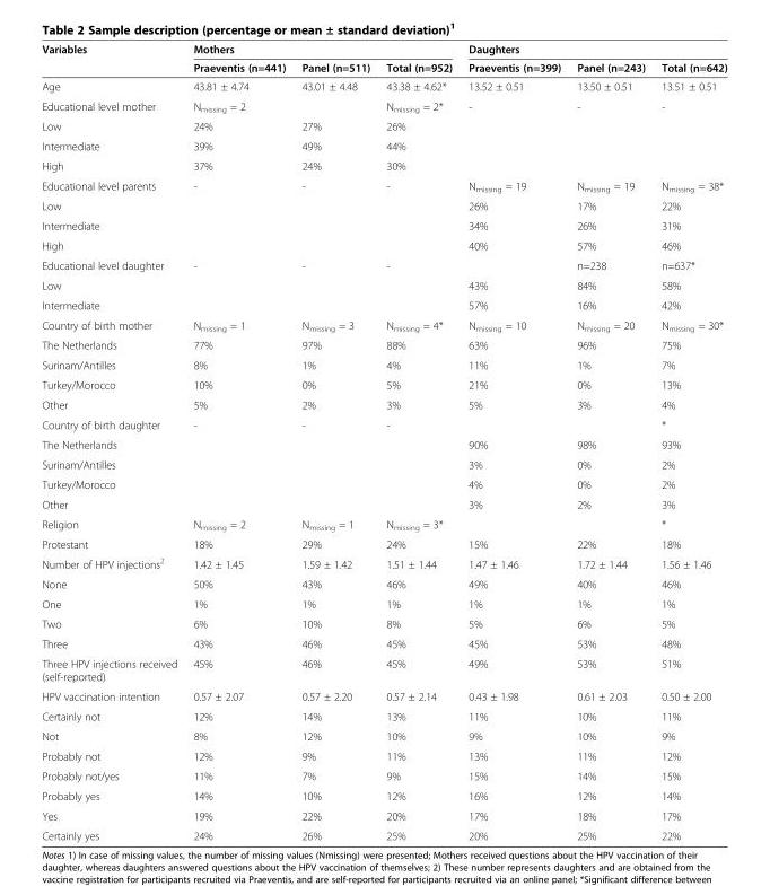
<table><thead><tr><td rowspan="2">Variables</td><td colspan="3">Mothers</td><td colspan="3">Daughters</td></tr><tr><td>Praeventis (n=441)</td><td>Panel (n=511)</td><td>Total (n=952)</td><td>Praeventis (n=399)</td><td>Panel (n=243)</td><td>Total (n=642)</td></tr></thead><tbody><tr><td>Age</td><td>43.81 ± 4.74</td><td>43.01 ± 4.48</td><td>43.38 ± 4.62*</td><td>13.52 ± 0.51</td><td>13.50 ± 0.51</td><td>13.51 ± 0.51</td></tr><tr><td>Educational level mother</td><td>N<sub>missing</sub> = 2</td><td></td><td>N<sub>missing</sub> = 2*</td><td>-</td><td>-</td><td>-</td></tr><tr><td>Low</td><td>24%</td><td>27%</td><td>26%</td><td></td><td></td><td></td></tr><tr><td>Intermediate</td><td>39%</td><td>49%</td><td>44%</td><td></td><td></td><td></td></tr><tr><td>High</td><td>37%</td><td>24%</td><td>30%</td><td></td><td></td><td></td></tr><tr><td>Educational level parents</td><td>-</td><td>-</td><td>-</td><td>N<sub>missing</sub> = 19</td><td>N<sub>missing</sub> = 19</td><td>N<sub>missing</sub> = 38*</td></tr><tr><td>Low</td><td></td><td></td><td></td><td>26%</td><td>17%</td><td>22%</td></tr><tr><td>Intermediate</td><td></td><td></td><td></td><td>34%</td><td>26%</td><td>31%</td></tr><tr><td>High</td><td></td><td></td><td></td><td>40%</td><td>57%</td><td>46%</td></tr><tr><td>Educational level daughter</td><td>-</td><td>-</td><td>-</td><td></td><td>n=238</td><td>n=637*</td></tr><tr><td>Low</td><td></td><td></td><td></td><td>43%</td><td>84%</td><td>58%</td></tr><tr><td>Intermediate</td><td></td><td></td><td></td><td>57%</td><td>16%</td><td>42%</td></tr><tr><td>Country of birth mother</td><td>N<sub>missing</sub> = 1</td><td>N<sub>missing</sub> = 3</td><td>N<sub>missing</sub> = 4*</td><td>N<sub>missing</sub> = 10</td><td>N<sub>missing</sub> = 20</td><td>N<sub>missing</sub> = 30*</td></tr><tr><td>The Netherlands</td><td>77%</td><td>97%</td><td>88%</td><td>63%</td><td>96%</td><td>75%</td></tr><tr><td>Surinam/Antilles</td><td>8%</td><td>1%</td><td>4%</td><td>11%</td><td>1%</td><td>7%</td></tr><tr><td>Turkey/Morocco</td><td>10%</td><td>0%</td><td>5%</td><td>21%</td><td>0%</td><td>13%</td></tr><tr><td>Other</td><td>5%</td><td>2%</td><td>3%</td><td>5%</td><td>3%</td><td>4%</td></tr><tr><td>Country of birth daughter</td><td>-</td><td>-</td><td>-</td><td></td><td></td><td>*</td></tr><tr><td>The Netherlands</td><td></td><td></td><td></td><td>90%</td><td>98%</td><td>93%</td></tr><tr><td>Surinam/Antilles</td><td></td><td></td><td></td><td>3%</td><td>0%</td><td>2%</td></tr><tr><td>Turkey/Morocco</td><td></td><td></td><td></td><td>4%</td><td>0%</td><td>2%</td></tr><tr><td>Other</td><td></td><td></td><td></td><td>3%</td><td>2%</td><td>3%</td></tr><tr><td>Religion</td><td>N<sub>missing</sub> = 2</td><td>N<sub>missing</sub> = 1</td><td>N<sub>missing</sub> = 3*</td><td></td><td></td><td>*</td></tr><tr><td>Protestant</td><td>18%</td><td>29%</td><td>24%</td><td>15%</td><td>22%</td><td>18%</td></tr><tr><td>Number of HPV injections<sup>2</sup></td><td>1.42 ± 1.45</td><td>1.59 ± 1.42</td><td>1.51 ± 1.44</td><td>1.47 ± 1.46</td><td>1.72 ± 1.44</td><td>1.56 ± 1.46</td></tr><tr><td>None</td><td>50%</td><td>43%</td><td>46%</td><td>49%</td><td>40%</td><td>46%</td></tr><tr><td>One</td><td>1%</td><td>1%</td><td>1%</td><td>1%</td><td>1%</td><td>1%</td></tr><tr><td>Two</td><td>6%</td><td>10%</td><td>8%</td><td>5%</td><td>6%</td><td>5%</td></tr><tr><td>Three</td><td>43%</td><td>46%</td><td>45%</td><td>45%</td><td>53%</td><td>48%</td></tr><tr><td>Three HPV injections received (self-reported)</td><td>45%</td><td>46%</td><td>45%</td><td>49%</td><td>53%</td><td>51%</td></tr><tr><td>HPV vaccination intention</td><td>0.57 ± 2.07</td><td>0.57 ± 2.20</td><td>0.57 ± 2.14</td><td>0.43 ± 1.98</td><td>0.61 ± 2.03</td><td>0.50 ± 2.00</td></tr><tr><td>Certainly not</td><td>12%</td><td>14%</td><td>13%</td><td>11%</td><td>10%</td><td>11%</td></tr><tr><td>Not</td><td>8%</td><td>12%</td><td>10%</td><td>9%</td><td>10%</td><td>9%</td></tr><tr><td>Probably not</td><td>12%</td><td>9%</td><td>11%</td><td>13%</td><td>11%</td><td>12%</td></tr><tr><td>Probably not/yes</td><td>11%</td><td>7%</td><td>9%</td><td>15%</td><td>14%</td><td>15%</td></tr><tr><td>Probably yes</td><td>14%</td><td>10%</td><td>12%</td><td>16%</td><td>12%</td><td>14%</td></tr><tr><td>Yes</td><td>19%</td><td>22%</td><td>20%</td><td>17%</td><td>18%</td><td>17%</td></tr><tr><td>Certainly yes</td><td>24%</td><td>26%</td><td>25%</td><td>20%</td><td>25%</td><td>22%</td></tr></tbody></table>